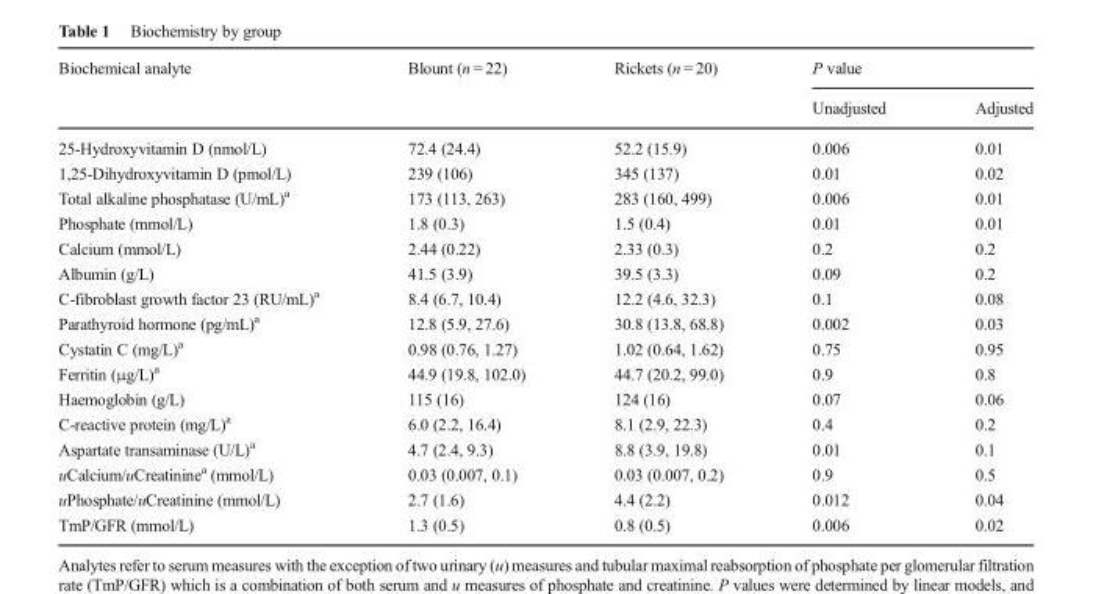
<table><thead><tr><td rowspan="2">Biochemical analyte</td><td rowspan="2">Blount (n = 22)</td><td rowspan="2">Rickets (n = 20)</td><td colspan="2">P value</td></tr><tr><td>Unadjusted</td><td>Adjusted</td></tr></thead><tbody><tr><td>25-Hydroxyvitamin D (nmol/L)</td><td>72.4 (24.4)</td><td>52.2 (15.9)</td><td>0.006</td><td>0.01</td></tr><tr><td>1,25-Dihydroxyvitamin D (pmol/L)</td><td>239 (106)</td><td>345 (137)</td><td>0.01</td><td>0.02</td></tr><tr><td>Total alkaline phosphatase (U/mL)<sup>a</sup></td><td>173 (113, 263)</td><td>283 (160, 499)</td><td>0.006</td><td>0.01</td></tr><tr><td>Phosphate (mmol/L)</td><td>1.8 (0.3)</td><td>1.5 (0.4)</td><td>0.01</td><td>0.01</td></tr><tr><td>Calcium (mmol/L)</td><td>2.44 (0.22)</td><td>2.33 (0.3)</td><td>0.2</td><td>0.2</td></tr><tr><td>Albumin (g/L)</td><td>41.5 (3.9)</td><td>39.5 (3.3)</td><td>0.09</td><td>0.2</td></tr><tr><td>C-fibroblast growth factor 23 (RU/mL)<sup>a</sup></td><td>8.4 (6.7, 10.4)</td><td>12.2 (4.6, 32.3)</td><td>0.1</td><td>0.08</td></tr><tr><td>Parathyroid hormone (pg/mL)<sup>a</sup></td><td>12.8 (5.9, 27.6)</td><td>30.8 (13.8, 68.8)</td><td>0.002</td><td>0.03</td></tr><tr><td>Cystatin C (mg/L)<sup>a</sup></td><td>0.98 (0.76, 1.27)</td><td>1.02 (0.64, 1.62)</td><td>0.75</td><td>0.95</td></tr><tr><td>Ferritin (μg/L)<sup>a</sup></td><td>44.9 (19.8, 102.0)</td><td>44.7 (20.2, 99.0)</td><td>0.9</td><td>0.8</td></tr><tr><td>Haemoglobin (g/L)</td><td>115 (16)</td><td>124 (16)</td><td>0.07</td><td>0.06</td></tr><tr><td>C-reactive protein (mg/L)<sup>a</sup></td><td>6.0 (2.2, 16.4)</td><td>8.1 (2.9, 22.3)</td><td>0.4</td><td>0.2</td></tr><tr><td>Aspartate transaminase (U/L)<sup>a</sup></td><td>4.7 (2.4, 9.3)</td><td>8.8 (3.9, 19.8)</td><td>0.01</td><td>0.1</td></tr><tr><td>uCalcium/uCreatinine<sup>a</sup> (mmol/L)</td><td>0.03 (0.007, 0.1)</td><td>0.03 (0.007, 0.2)</td><td>0.9</td><td>0.5</td></tr><tr><td>uPhosphate/uCreatinine (mmol/L)</td><td>2.7 (1.6)</td><td>4.4 (2.2)</td><td>0.012</td><td>0.04</td></tr><tr><td>TmP/GFR (mmol/L)</td><td>1.3 (0.5)</td><td>0.8 (0.5)</td><td>0.006</td><td>0.02</td></tr></tbody></table>